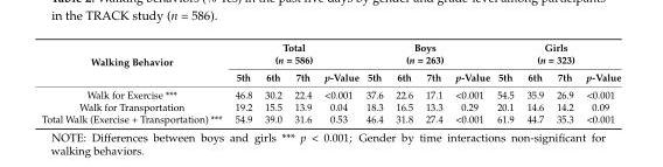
<table><thead><tr><td rowspan="2">Walking Behavior</td><td colspan="4">Total (n = 586)</td><td colspan="4">Boys (n = 263)</td><td colspan="4">Girls (n = 323)</td></tr><tr><td>5th</td><td>6th</td><td>7th</td><td>p-Value</td><td>5th</td><td>6th</td><td>7th</td><td>p-Value</td><td>5th</td><td>6th</td><td>7th</td><td>p-Value</td></tr></thead><tbody><tr><td>Walk for Exercise ***</td><td>46.8</td><td>30.2</td><td>22.4</td><td>&lt;0.001</td><td>37.6</td><td>22.6</td><td>17.1</td><td>&lt;0.001</td><td>54.5</td><td>35.9</td><td>26.9</td><td>&lt;0.001</td></tr><tr><td>Walk for Transportation</td><td>19.2</td><td>15.5</td><td>13.9</td><td>0.04</td><td>18.3</td><td>16.5</td><td>13.3</td><td>0.29</td><td>20.1</td><td>14.6</td><td>14.2</td><td>0.09</td></tr><tr><td>Total Walk (Exercise + Transportation) ***</td><td>54.9</td><td>39.0</td><td>31.6</td><td>0.53</td><td>46.4</td><td>31.8</td><td>27.4</td><td>&lt;0.001</td><td>61.9</td><td>44.7</td><td>35.3</td><td>&lt;0.001</td></tr></tbody></table>